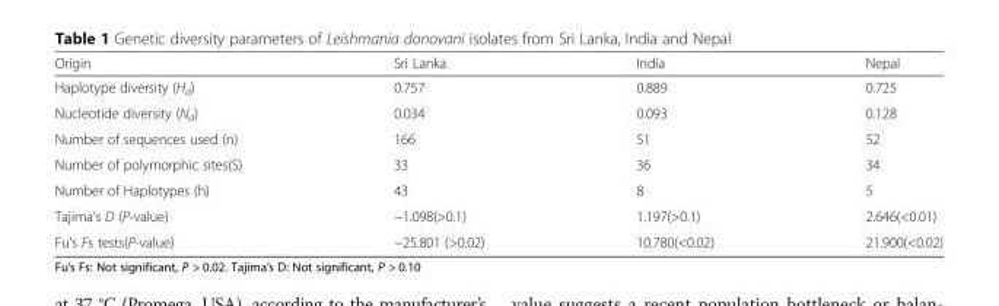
<table><thead><tr><td>Origin</td><td>Sri Lanka</td><td>India</td><td>Nepal</td></tr></thead><tbody><tr><td>Haplotype diversity (H<sub>d</sub>)</td><td>0.757</td><td>0.889</td><td>0.725</td></tr><tr><td>Nucleotide diversity (N<sub>d</sub>)</td><td>0.034</td><td>0.093</td><td>0.128</td></tr><tr><td>Number of sequences used (n)</td><td>166</td><td>51</td><td>52</td></tr><tr><td>Number of polymorphic sites(S)</td><td>33</td><td>36</td><td>34</td></tr><tr><td>Number of Haplotypes (h)</td><td>43</td><td>8</td><td>5</td></tr><tr><td>Tajima’s D (P-value)</td><td>−1.098(&gt;0.1)</td><td>1.197(&gt;0.1)</td><td>2.646(&lt;0.01)</td></tr><tr><td>Fu’s Fs tests(P-value)</td><td>−25.801 (&gt;0.02)</td><td>10.780(&lt;0.02)</td><td>21.900(&lt;0.02)</td></tr></tbody></table>